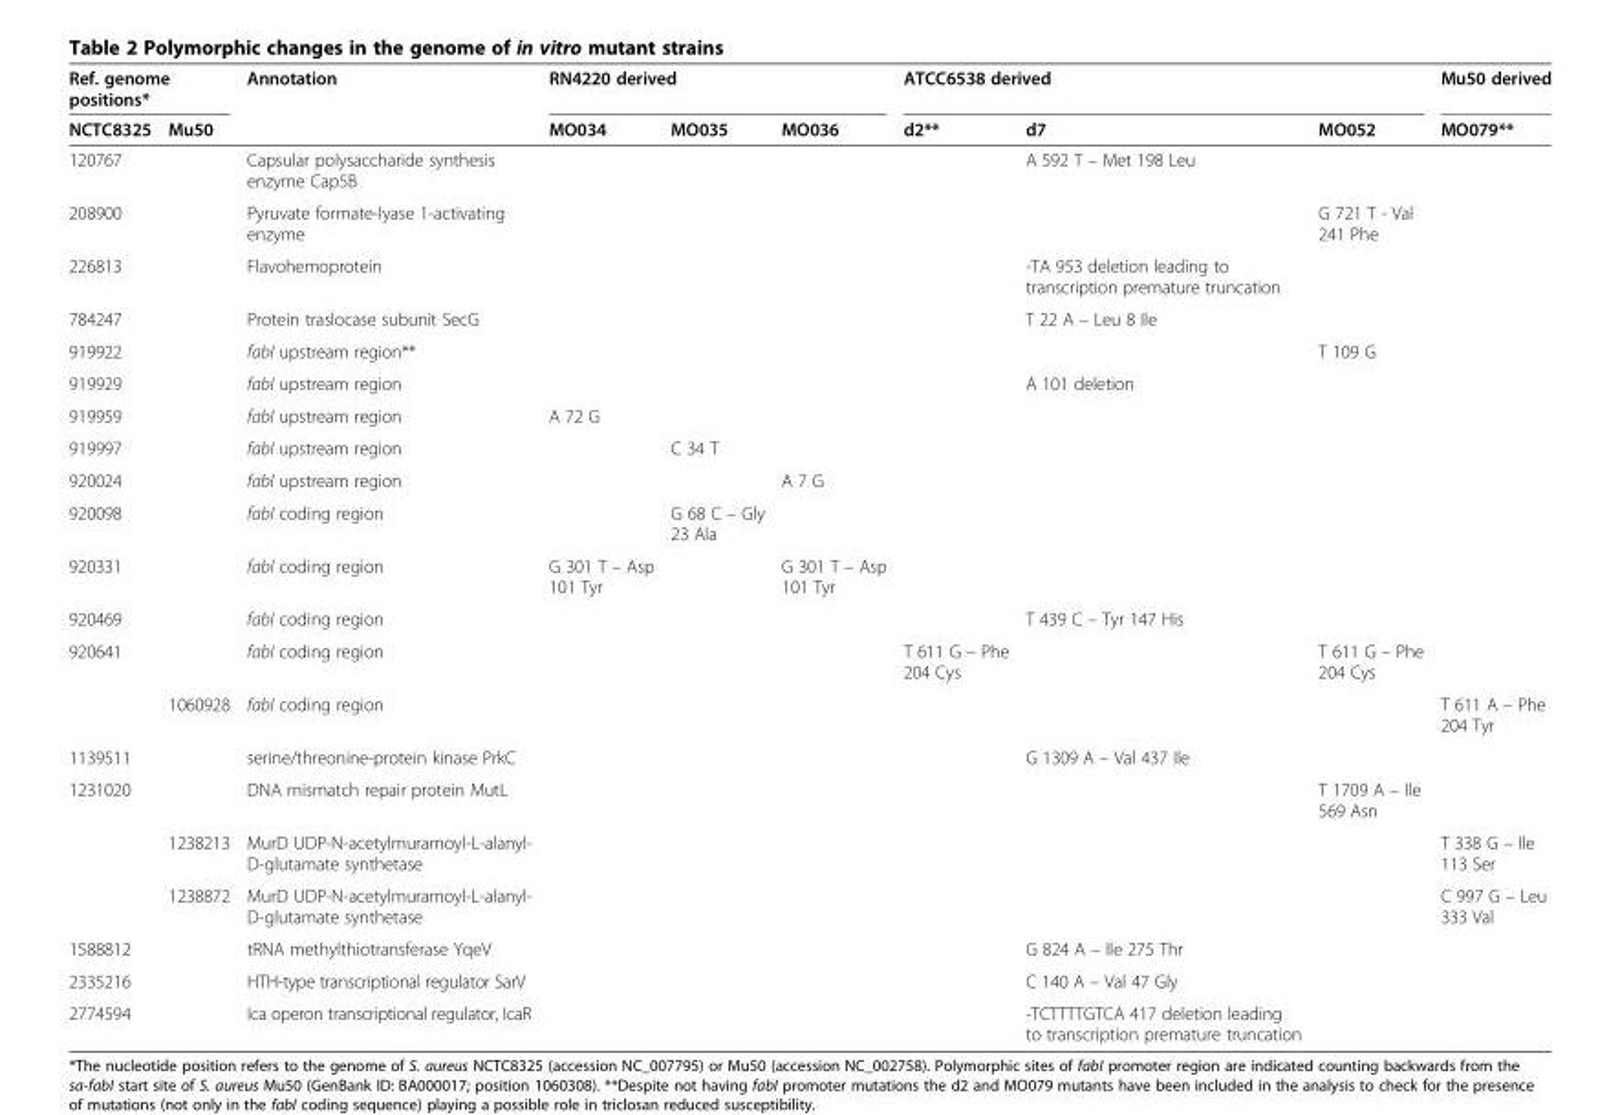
<table><thead><tr><td colspan="2">Ref. genome positions*</td><td rowspan="2">Annotation</td><td colspan="3">RN4220 derived</td><td colspan="3">ATCC6538 derived</td><td rowspan="2">Mu50 derived MO079**</td></tr><tr><td>NCTC8325</td><td>Mu50</td><td>MO034</td><td>MO035</td><td>MO036</td><td>d2**</td><td>d7</td><td>MO052</td></tr></thead><tbody><tr><td>120767</td><td></td><td>Capsular polysaccharide synthesis enzyme Cap5B</td><td></td><td></td><td></td><td></td><td>A 592 T – Met 198 Leu</td><td></td><td></td></tr><tr><td>208900</td><td></td><td>Pyruvate formate-lyase 1-activating enzyme</td><td></td><td></td><td></td><td></td><td></td><td>G 721 T - Val 241 Phe</td><td></td></tr><tr><td>226813</td><td></td><td>Flavohemoprotein</td><td></td><td></td><td></td><td></td><td>-TA 953 deletion leading to transcription premature truncation</td><td></td><td></td></tr><tr><td>784247</td><td></td><td>Protein traslocase subunit SecG</td><td></td><td></td><td></td><td></td><td>T 22 A – Leu 8 Ile</td><td></td><td></td></tr><tr><td>919922</td><td></td><td>fabI upstream region**</td><td></td><td></td><td></td><td></td><td></td><td>T 109 G</td><td></td></tr><tr><td>919929</td><td></td><td>fabI upstream region</td><td></td><td></td><td></td><td></td><td>A 101 deletion</td><td></td><td></td></tr><tr><td>919959</td><td></td><td>fabI upstream region</td><td>A 72 G</td><td></td><td></td><td></td><td></td><td></td><td></td></tr><tr><td>919997</td><td></td><td>fabI upstream region</td><td></td><td>C 34 T</td><td></td><td></td><td></td><td></td><td></td></tr><tr><td>920024</td><td></td><td>fabI upstream region</td><td></td><td></td><td>A 7 G</td><td></td><td></td><td></td><td></td></tr><tr><td>920098</td><td></td><td>fabI coding region</td><td></td><td>G 68 C – Gly 23 Ala</td><td></td><td></td><td></td><td></td><td></td></tr><tr><td>920331</td><td></td><td>fabI coding region</td><td>G 301 T – Asp 101 Tyr</td><td></td><td>G 301 T – Asp 101 Tyr</td><td></td><td></td><td></td><td></td></tr><tr><td>920469</td><td></td><td>fabI coding region</td><td></td><td></td><td></td><td></td><td>T 439 C – Tyr 147 His</td><td></td><td></td></tr><tr><td rowspan="2">920641</td><td></td><td>fabI coding region</td><td></td><td></td><td></td><td>T 611 G – Phe 204 Cys</td><td></td><td>T 611 G – Phe 204 Cys</td><td></td></tr><tr><td>1060928</td><td>fabI coding region</td><td></td><td></td><td></td><td></td><td></td><td></td><td>T 611 A – Phe 204 Tyr</td></tr><tr><td>1139511</td><td></td><td>serine/threonine-protein kinase PrkC</td><td></td><td></td><td></td><td></td><td>G 1309 A – Val 437 Ile</td><td></td><td></td></tr><tr><td rowspan="3">1231020</td><td></td><td>DNA mismatch repair protein MutL</td><td></td><td></td><td></td><td></td><td></td><td>T 1709 A – Ile 569 Asn</td><td></td></tr><tr><td>1238213</td><td>MurD UDP-N-acetylmuramoyl-L-alanyl- D-glutamate synthetase</td><td></td><td></td><td></td><td></td><td></td><td></td><td>T 338 G – Ile 113 Ser</td></tr><tr><td>1238872</td><td>MurD UDP-N-acetylmuramoyl-L-alanyl- D-glutamate synthetase</td><td></td><td></td><td></td><td></td><td></td><td></td><td>C 997 G – Leu 333 Val</td></tr><tr><td>1588812</td><td></td><td>tRNA methylthiotransferase YqeV</td><td></td><td></td><td></td><td></td><td>G 824 A – Ile 275 Thr</td><td></td><td></td></tr><tr><td>2335216</td><td></td><td>HTH-type transcriptional regulator SarV</td><td></td><td></td><td></td><td></td><td>C 140 A – Val 47 Gly</td><td></td><td></td></tr><tr><td>2774594</td><td></td><td>Ica operon transcriptional regulator, IcaR</td><td></td><td></td><td></td><td></td><td>-TCTTTTGTCA 417 deletion leading to transcription premature truncation</td><td></td><td></td></tr></tbody></table>